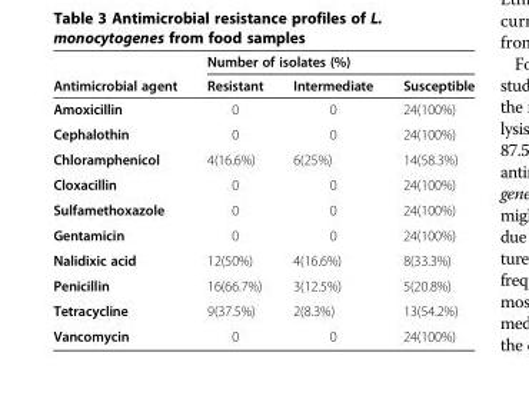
<table><thead><tr><td rowspan="2">Antimicrobial agent</td><td colspan="3">Number of isolates (%)</td></tr><tr><td>Resistant</td><td>Intermediate</td><td>Susceptible</td></tr></thead><tbody><tr><td>Amoxicillin</td><td>0</td><td>0</td><td>24(100%)</td></tr><tr><td>Cephalothin</td><td>0</td><td>0</td><td>24(100%)</td></tr><tr><td>Chloramphenicol</td><td>4(16.6%)</td><td>6(25%)</td><td>14(58.3%)</td></tr><tr><td>Cloxacillin</td><td>0</td><td>0</td><td>24(100%)</td></tr><tr><td>Sulfamethoxazole</td><td>0</td><td>0</td><td>24(100%)</td></tr><tr><td>Gentamicin</td><td>0</td><td>0</td><td>24(100%)</td></tr><tr><td>Nalidixic acid</td><td>12(50%)</td><td>4(16.6%)</td><td>8(33.3%)</td></tr><tr><td>Penicillin</td><td>16(66.7%)</td><td>3(12.5%)</td><td>5(20.8%)</td></tr><tr><td>Tetracycline</td><td>9(37.5%)</td><td>2(8.3%)</td><td>13(54.2%)</td></tr><tr><td>Vancomycin</td><td>0</td><td>0</td><td>24(100%)</td></tr></tbody></table>